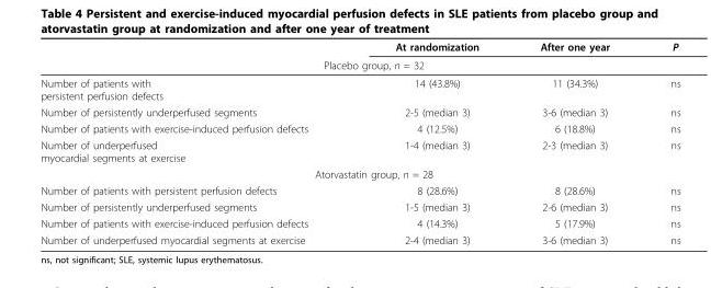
<table><thead><tr><td></td><td>At randomization</td><td>After one year</td><td>P</td></tr><tr><td colspan="4">Placebo group, n = 32</td></tr></thead><tbody><tr><td>Number of patients with persistent perfusion defects</td><td>14 (43.8%)</td><td>11 (34.3%)</td><td>ns</td></tr><tr><td>Number of persistently underperfused segments</td><td>2-5 (median 3)</td><td>3-6 (median 3)</td><td>ns</td></tr><tr><td>Number of patients with exercise-induced perfusion defects</td><td>4 (12.5%)</td><td>6 (18.8%)</td><td>ns</td></tr><tr><td>Number of underperfused myocardial segments at exercise</td><td>1-4 (median 3)</td><td>2-3 (median 3)</td><td>ns</td></tr><tr><td colspan="4">Atorvastatin group, n = 28</td></tr><tr><td>Number of patients with persistent perfusion defects</td><td>8 (28.6%)</td><td>8 (28.6%)</td><td>ns</td></tr><tr><td>Number of persistently underperfused segments</td><td>1-5 (median 3)</td><td>2-6 (median 3)</td><td>ns</td></tr><tr><td>Number of patients with exercise-induced perfusion defects</td><td>4 (14.3%)</td><td>5 (17.9%)</td><td>ns</td></tr><tr><td>Number of underperfused myocardial segments at exercise</td><td>2-4 (median 3)</td><td>3-6 (median 3)</td><td>ns</td></tr></tbody></table>